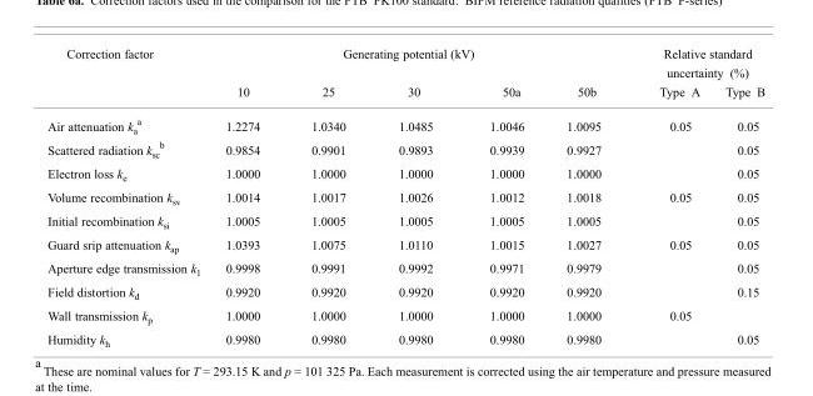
<table><thead><tr><td rowspan="2">Correction factor</td><td colspan="5">Generating potential (kV)</td><td colspan="2">Relative standard uncertainty (%)</td></tr><tr><td>10</td><td>25</td><td>30</td><td>50a</td><td>50b</td><td>Type A</td><td>Type B</td></tr></thead><tbody><tr><td>Air attenuation k<sub>a</sub> <sup>a</sup></td><td>1.2274</td><td>1.0340</td><td>1.0485</td><td>1.0046</td><td>1.0095</td><td>0.05</td><td>0.05</td></tr><tr><td>Scattered radiation k<sub>sc</sub> <sup>b</sup></td><td>0.9854</td><td>0.9901</td><td>0.9893</td><td>0.9939</td><td>0.9927</td><td></td><td>0.05</td></tr><tr><td>Electron loss k<sub>e</sub></td><td>1.0000</td><td>1.0000</td><td>1.0000</td><td>1.0000</td><td>1.0000</td><td></td><td>0.05</td></tr><tr><td>Volume recombination k<sub>sv</sub></td><td>1.0014</td><td>1.0017</td><td>1.0026</td><td>1.0012</td><td>1.0018</td><td>0.05</td><td>0.05</td></tr><tr><td>Initial recombination k<sub>si</sub></td><td>1.0005</td><td>1.0005</td><td>1.0005</td><td>1.0005</td><td>1.0005</td><td></td><td>0.05</td></tr><tr><td>Guard srip attenuation k<sub>ap</sub></td><td>1.0393</td><td>1.0075</td><td>1.0110</td><td>1.0015</td><td>1.0027</td><td>0.05</td><td>0.05</td></tr><tr><td>Aperture edge transmission k<sub>1</sub></td><td>0.9998</td><td>0.9991</td><td>0.9992</td><td>0.9971</td><td>0.9979</td><td></td><td>0.05</td></tr><tr><td>Field distortion k<sub>d</sub></td><td>0.9920</td><td>0.9920</td><td>0.9920</td><td>0.9920</td><td>0.9920</td><td></td><td>0.15</td></tr><tr><td>Wall transmission k<sub>p</sub></td><td>1.0000</td><td>1.0000</td><td>1.0000</td><td>1.0000</td><td>1.0000</td><td>0.05</td><td></td></tr><tr><td>Humidity k<sub>h</sub></td><td>0.9980</td><td>0.9980</td><td>0.9980</td><td>0.9980</td><td>0.9980</td><td></td><td>0.05</td></tr></tbody></table>